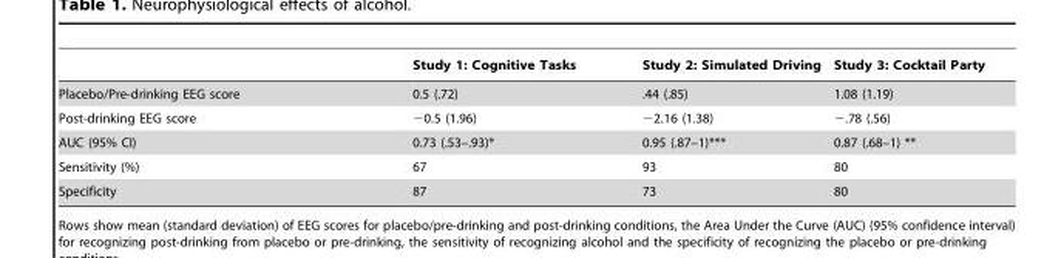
<table><thead><tr><td></td><td>Study 1: Cognitive Tasks</td><td>Study 2: Simulated Driving</td><td>Study 3: Cocktail Party</td></tr></thead><tbody><tr><td>Placebo/Pre-drinking EEG score</td><td>0.5 (.72)</td><td>.44 (.85)</td><td>1.08 (1.19)</td></tr><tr><td>Post-drinking EEG score</td><td>−0.5 (1.96)</td><td>−2.16 (1.38)</td><td>−.78 (.56)</td></tr><tr><td>AUC (95% CI)</td><td>0.73 (.53–.93)*</td><td>0.95 (.87–1)***</td><td>0.87 (.68–1) **</td></tr><tr><td>Sensitivity (%)</td><td>67</td><td>93</td><td>80</td></tr><tr><td>Specificity</td><td>87</td><td>73</td><td>80</td></tr></tbody></table>